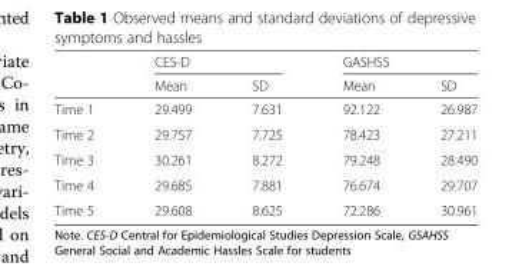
<table><thead><tr><td rowspan="2"></td><td colspan="2">CES-D</td><td colspan="2">GASHSS</td></tr><tr><td>Mean</td><td>SD</td><td>Mean</td><td>SD</td></tr></thead><tbody><tr><td>Time 1</td><td>29.499</td><td>7.631</td><td>92.122</td><td>26.987</td></tr><tr><td>Time 2</td><td>29.757</td><td>7.725</td><td>78.423</td><td>27.211</td></tr><tr><td>Time 3</td><td>30.261</td><td>8.272</td><td>79.248</td><td>28.490</td></tr><tr><td>Time 4</td><td>29.685</td><td>7.881</td><td>76.674</td><td>29.707</td></tr><tr><td>Time 5</td><td>29.608</td><td>8.625</td><td>72.286</td><td>30.961</td></tr></tbody></table>